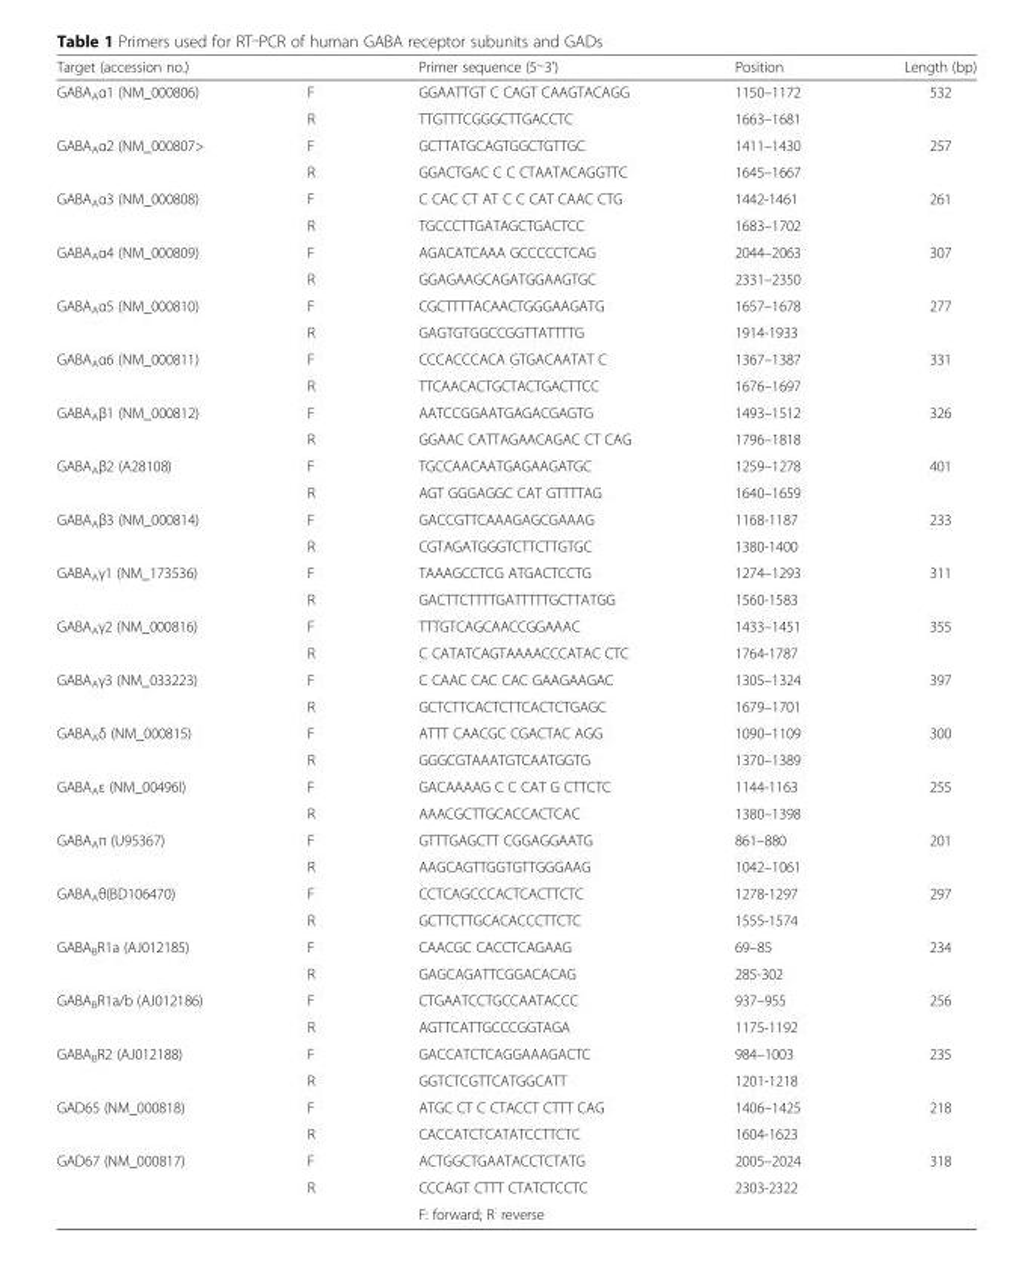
<table><thead><tr><td>Target (accession no.)</td><td></td><td>Primer sequence (5<sup>,_</sup>3’)</td><td>Position</td><td>Length (bp)</td></tr></thead><tbody><tr><td rowspan="2">GABA<sub>A</sub>α1 (NM_000806)</td><td>F</td><td>GGAATTGT C CAGT CAAGTACAGG</td><td>1150–1172</td><td rowspan="2">532</td></tr><tr><td>R</td><td>TTGTTTCGGGCTTGACCTC</td><td>1663–1681</td></tr><tr><td rowspan="2">GABA<sub>A</sub>α2 (NM_000807&gt;</td><td>F</td><td>GCTTATGCAGTGGCTGTTGC</td><td>1411–1430</td><td rowspan="2">257</td></tr><tr><td>R</td><td>GGACTGAC C C CTAATACAGGTTC</td><td>1645–1667</td></tr><tr><td rowspan="2">GABA<sub>A</sub>α3 (NM_000808)</td><td>F</td><td>C CAC CT AT C C CAT CAAC CTG</td><td>1442-1461</td><td rowspan="2">261</td></tr><tr><td>R</td><td>TGCCCTTGATAGCTGACTCC</td><td>1683–1702</td></tr><tr><td rowspan="2">GABA<sub>A</sub>α4 (NM_000809)</td><td>F</td><td>AGACATCAAA GCCCCCTCAG</td><td>2044–2063</td><td rowspan="2">307</td></tr><tr><td>R</td><td>GGAGAAGCAGATGGAAGTGC</td><td>2331–2350</td></tr><tr><td rowspan="2">GABA<sub>A</sub>α5 (NM_000810)</td><td>F</td><td>CGCTTTTACAACTGGGAAGATG</td><td>1657–1678</td><td rowspan="2">277</td></tr><tr><td>R</td><td>GAGTGTGGCCGGTTATTTTG</td><td>1914-1933</td></tr><tr><td rowspan="2">GABA<sub>A</sub>α6 (NM_000811)</td><td>F</td><td>CCCACCCACA GTGACAATAT C</td><td>1367–1387</td><td rowspan="2">331</td></tr><tr><td>R</td><td>TTCAACACTGCTACTGACTTCC</td><td>1676–1697</td></tr><tr><td rowspan="2">GABA<sub>A</sub>β1 (NM_000812)</td><td>F</td><td>AATCCGGAATGAGACGAGTG</td><td>1493–1512</td><td rowspan="2">326</td></tr><tr><td>R</td><td>GGAAC CATTAGAACAGAC CT CAG</td><td>1796–1818</td></tr><tr><td rowspan="2">GABA<sub>A</sub>β2 (A28108)</td><td>F</td><td>TGCCAACAATGAGAAGATGC</td><td>1259–1278</td><td rowspan="2">401</td></tr><tr><td>R</td><td>AGT GGGAGGC CAT GTTTTAG</td><td>1640–1659</td></tr><tr><td rowspan="2">GABA<sub>A</sub>β3 (NM_000814)</td><td>F</td><td>GACCGTTCAAAGAGCGAAAG</td><td>1168-1187</td><td rowspan="2">233</td></tr><tr><td>R</td><td>CGTAGATGGGTCTTCTTGTGC</td><td>1380-1400</td></tr><tr><td rowspan="2">GABA<sub>A</sub>γ1 (NM_173536)</td><td>F</td><td>TAAAGCCTCG ATGACTCCTG</td><td>1274–1293</td><td rowspan="2">311</td></tr><tr><td>R</td><td>GACTTCTTTTGATTTTTGCTTATGG</td><td>1560-1583</td></tr><tr><td rowspan="2">GABA<sub>A</sub>γ2 (NM_000816)</td><td>F</td><td>TTTGTCAGCAACCGGAAAC</td><td>1433–1451</td><td rowspan="2">355</td></tr><tr><td>R</td><td>C CATATCAGTAAAACCCATAC CTC</td><td>1764-1787</td></tr><tr><td rowspan="2">GABA<sub>A</sub>γ3 (NM_033223)</td><td>F</td><td>C CAAC CAC CAC GAAGAAGAC</td><td>1305–1324</td><td rowspan="2">397</td></tr><tr><td>R</td><td>GCTCTTCACTCTTCACTCTGAGC</td><td>1679–1701</td></tr><tr><td rowspan="2">GABA<sub>A</sub>δ (NM_000815)</td><td>F</td><td>ATTT CAACGC CGACTAC AGG</td><td>1090–1109</td><td rowspan="2">300</td></tr><tr><td>R</td><td>GGGCGTAAATGTCAATGGTG</td><td>1370–1389</td></tr><tr><td rowspan="2">GABA<sub>A</sub>ε (NM_00496l)</td><td>F</td><td>GACAAAAG C C CAT G CTTCTC</td><td>1144-1163</td><td rowspan="2">255</td></tr><tr><td>R</td><td>AAACGCTTGCACCACTCAC</td><td>1380–1398</td></tr><tr><td rowspan="2">GABA<sub>A</sub>π (U95367)</td><td>F</td><td>GTTTGAGCTT CGGAGGAATG</td><td>861–880</td><td rowspan="2">201</td></tr><tr><td>R</td><td>AAGCAGTTGGTGTTGGGAAG</td><td>1042–1061</td></tr><tr><td rowspan="2">GABA<sub>A</sub>θ(BD106470)</td><td>F</td><td>CCTCAGCCCACTCACTTCTC</td><td>1278-1297</td><td rowspan="2">297</td></tr><tr><td>R</td><td>GCTTCTTGCACACCCTTCTC</td><td>1555-1574</td></tr><tr><td rowspan="2">GABA<sub>B</sub>R1a (AJ012185)</td><td>F</td><td>CAACGC CACCTCAGAAG</td><td>69–85</td><td rowspan="2">234</td></tr><tr><td>R</td><td>GAGCAGATTCGGACACAG</td><td>285-302</td></tr><tr><td rowspan="2">GABA<sub>B</sub>R1a/b (AJ012186)</td><td>F</td><td>CTGAATCCTGCCAATACCC</td><td>937–955</td><td rowspan="2">256</td></tr><tr><td>R</td><td>AGTTCATTGCCCGGTAGA</td><td>1175-1192</td></tr><tr><td rowspan="2">GABA<sub>B</sub>R2 (AJ012188)</td><td>F</td><td>GACCATCTCAGGAAAGACTC</td><td>984–1003</td><td rowspan="2">235</td></tr><tr><td>R</td><td>GGTCTCGTTCATGGCATT</td><td>1201-1218</td></tr><tr><td rowspan="2">GAD65 (NM_000818)</td><td>F</td><td>ATGC CT C CTACCT CTTT CAG</td><td>1406–1425</td><td rowspan="2">218</td></tr><tr><td>R</td><td>CACCATCTCATATCCTTCTC</td><td>1604-1623</td></tr><tr><td rowspan="3">GAD67 (NM_000817)</td><td>F</td><td>ACTGGCTGAATACCTCTATG</td><td>2005–2024</td><td rowspan="3">318</td></tr><tr><td>R</td><td>CCCAGT CTTT CTATCTCCTC</td><td>2303-2322</td></tr><tr><td></td><td>F: forward; R<sup>:</sup> reverse</td><td></td></tr></tbody></table>